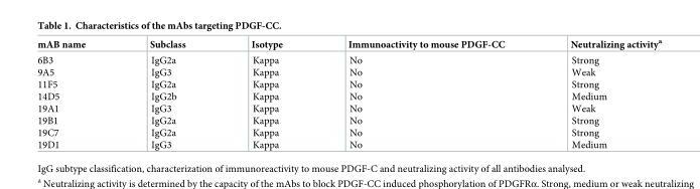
<table><thead><tr><td>mAB name</td><td>Subclass</td><td>Isotype</td><td>Immunoactivity to mouse PDGF-CC</td><td>Neutralizing activity<sup>a</sup></td></tr></thead><tbody><tr><td>6B3 9A5 11F5 14D5 19A1 19B1 19C7 19D1</td><td>IgG2a IgG3 IgG2a IgG2b IgG3 IgG2a IgG2a IgG3</td><td>Kappa Kappa Kappa Kappa Kappa Kappa Kappa Kappa</td><td>No No No No No No No No</td><td>Strong Weak Strong Medium Weak Strong Strong Medium</td></tr></tbody></table>